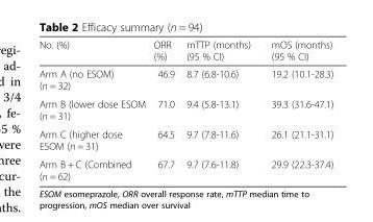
<table><thead><tr><td>No. (%)</td><td>ORR (%)</td><td>mTTP (months) (95 % CI)</td><td>mOS (months) (95 % CI)</td></tr></thead><tbody><tr><td>Arm A (no ESOM) (n = 32)</td><td>46.9</td><td>8.7 (6.8-10.6)</td><td>19.2 (10.1-28.3)</td></tr><tr><td>Arm B (lower dose ESOM (n = 31)</td><td>71.0</td><td>9.4 (5.8-13.1)</td><td>39.3 (31.6-47.1)</td></tr><tr><td>Arm C (higher dose ESOM (n = 31)</td><td>64.5</td><td>9.7 (7.8-11.6)</td><td>26.1 (21.1-31.1)</td></tr><tr><td>Arm B + C (Combined (n = 62)</td><td>67.7</td><td>9.7 (7.6-11.8)</td><td>29.9 (22.3-37.4)</td></tr></tbody></table>